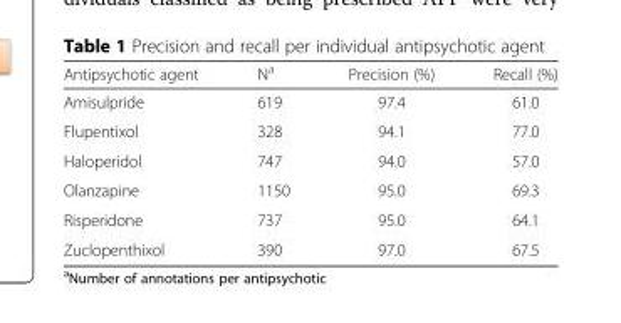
<table><thead><tr><td>Antipsychotic agent</td><td>N<sup>a</sup></td><td>Precision (%)</td><td>Recall (%)</td></tr></thead><tbody><tr><td>Amisulpride</td><td>619</td><td>97.4</td><td>61.0</td></tr><tr><td>Flupentixol</td><td>328</td><td>94.1</td><td>77.0</td></tr><tr><td>Haloperidol</td><td>747</td><td>94.0</td><td>57.0</td></tr><tr><td>Olanzapine</td><td>1150</td><td>95.0</td><td>69.3</td></tr><tr><td>Risperidone</td><td>737</td><td>95.0</td><td>64.1</td></tr><tr><td>Zuclopenthixol</td><td>390</td><td>97.0</td><td>67.5</td></tr></tbody></table>